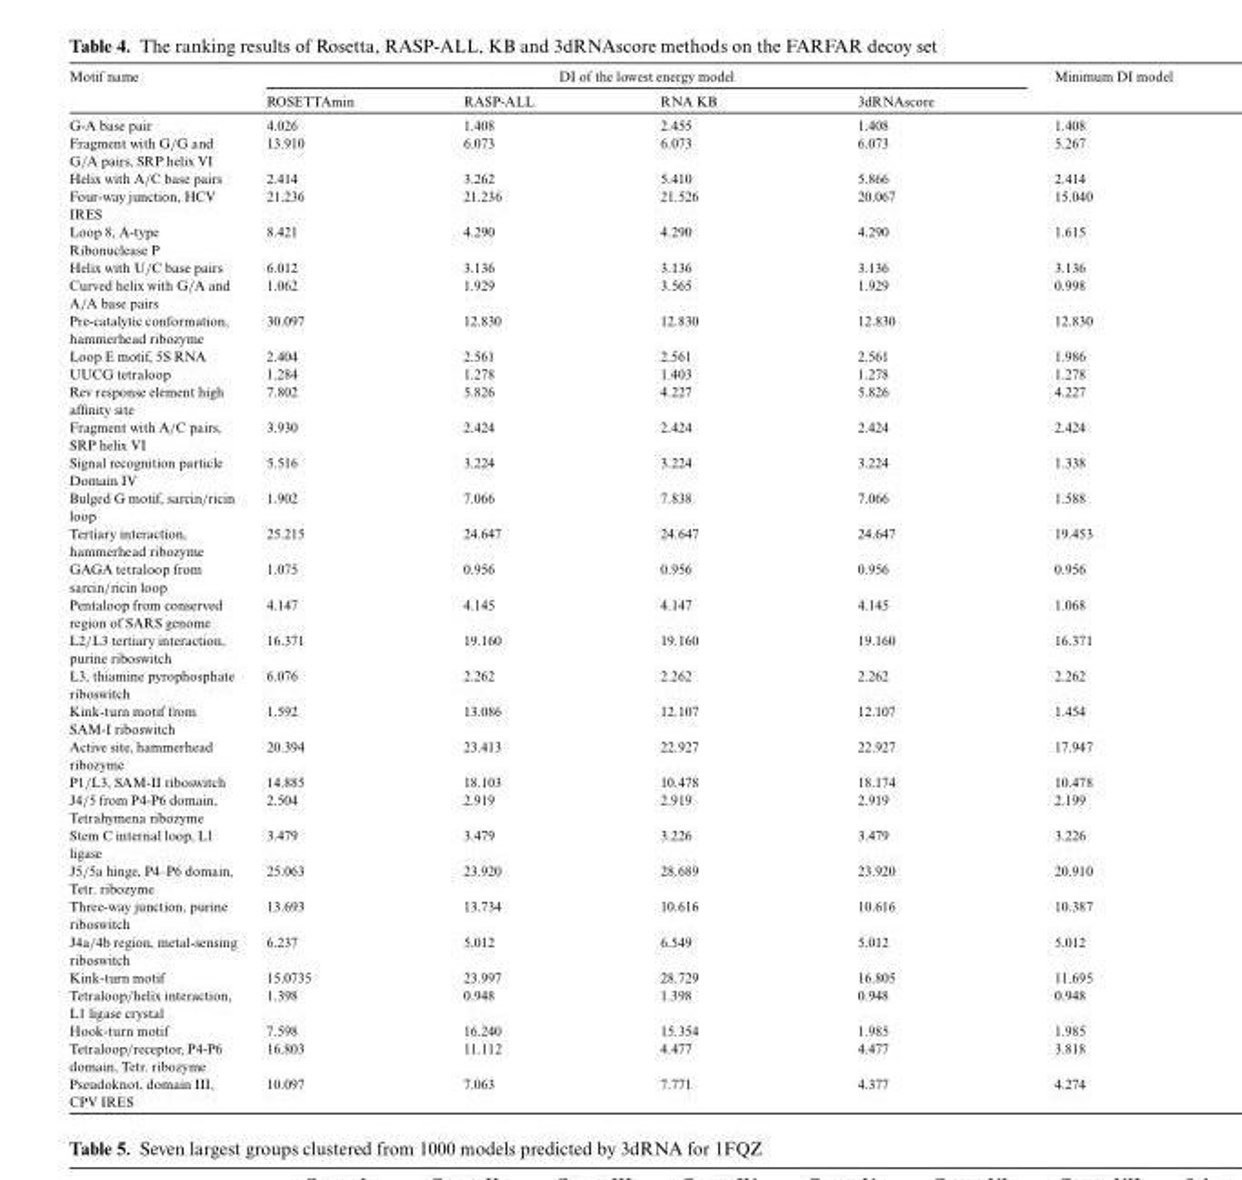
<table><thead><tr><td rowspan="2">Motif name</td><td colspan="4">DI of the lowest energy model</td><td rowspan="2">Minimum DI model</td></tr><tr><td>ROSETTAmin</td><td>RASP-ALL</td><td>RNA KB</td><td>3dRNAscore</td></tr></thead><tbody><tr><td>G-A base pair</td><td>4.026</td><td>1.408</td><td>2.455</td><td>1.408</td><td>1.408</td></tr><tr><td>Fragment with G/G and G/A pairs, SRP helix VI</td><td>13.910</td><td>6.073</td><td>6.073</td><td>6.073</td><td>5.267</td></tr><tr><td>Helix with A/C base pairs</td><td>2.414</td><td>3.262</td><td>5.410</td><td>5.866</td><td>2.414</td></tr><tr><td>Four-way junction, HCV IRES</td><td>21.236</td><td>21.236</td><td>21.526</td><td>20.067</td><td>15.040</td></tr><tr><td>Loop 8, A-type Ribonuclease P</td><td>8.421</td><td>4.290</td><td>4.290</td><td>4.290</td><td>1.615</td></tr><tr><td>Helix with U/C base pairs</td><td>6.012</td><td>3.136</td><td>3.136</td><td>3.136</td><td>3.136</td></tr><tr><td>Curved helix with G/A and A/A base pairs</td><td>1.062</td><td>1.929</td><td>3.565</td><td>1.929</td><td>0.998</td></tr><tr><td>Pre-catalytic conformation, hammerhead ribozyme</td><td>30.097</td><td>12.830</td><td>12.830</td><td>12.830</td><td>12.830</td></tr><tr><td>Loop E motif, 5S RNA</td><td>2.404</td><td>2.561</td><td>2.561</td><td>2.561</td><td>1.986</td></tr><tr><td>UUCG tetraloop</td><td>1.284</td><td>1.278</td><td>1.403</td><td>1.278</td><td>1.278</td></tr><tr><td>Rev response element high affinity site</td><td>7.802</td><td>5.826</td><td>4.227</td><td>5.826</td><td>4.227</td></tr><tr><td>Fragment with A/C pairs, SRP helix VI</td><td>3.930</td><td>2.424</td><td>2.424</td><td>2.424</td><td>2.424</td></tr><tr><td>Signal recognition particle Domain IV</td><td>5.516</td><td>3.224</td><td>3.224</td><td>3.224</td><td>1.338</td></tr><tr><td>Bulged G motif, sarcin/ricin loop</td><td>1.902</td><td>7.066</td><td>7.838</td><td>7.066</td><td>1.588</td></tr><tr><td>Tertiary interaction, hammerhead ribozyme</td><td>25.215</td><td>24.647</td><td>24.647</td><td>24.647</td><td>19.453</td></tr><tr><td>GAGA tetraloop from sarcin/ricin loop</td><td>1.075</td><td>0.956</td><td>0.956</td><td>0.956</td><td>0.956</td></tr><tr><td>Pentaloop from conserved region of SARS genome</td><td>4.147</td><td>4.145</td><td>4.147</td><td>4.145</td><td>1.068</td></tr><tr><td>L2/L3 tertiary interaction, purine riboswitch</td><td>16.371</td><td>19.160</td><td>19.160</td><td>19.160</td><td>16.371</td></tr><tr><td>L3, thiamine pyrophosphate riboswitch</td><td>6.076</td><td>2.262</td><td>2.262</td><td>2.262</td><td>2.262</td></tr><tr><td>Kink-turn motif from SAM-I riboswitch</td><td>1.592</td><td>13.086</td><td>12.107</td><td>12.107</td><td>1.454</td></tr><tr><td>Active site, hammerhead ribozyme</td><td>20.394</td><td>23.413</td><td>22.927</td><td>22.927</td><td>17.947</td></tr><tr><td>P1/L3, SAM-II riboswitch</td><td>14.885</td><td>18.103</td><td>10.478</td><td>18.174</td><td>10.478</td></tr><tr><td>J4/5 from P4-P6 domain, Tetrahymena ribozyme</td><td>2.504</td><td>2.919</td><td>2.919</td><td>2.919</td><td>2.199</td></tr><tr><td>Stem C internal loop, L1 ligase</td><td>3.479</td><td>3.479</td><td>3.226</td><td>3.479</td><td>3.226</td></tr><tr><td>J5/5a hinge, P4–P6 domain, Tetr. ribozyme</td><td>25.063</td><td>23.920</td><td>28.689</td><td>23.920</td><td>20.910</td></tr><tr><td>Three-way junction, purine riboswitch</td><td>13.693</td><td>13.734</td><td>10.616</td><td>10.616</td><td>10.387</td></tr><tr><td>J4a/4b region, metal-sensing riboswitch</td><td>6.237</td><td>5.012</td><td>6.549</td><td>5.012</td><td>5.012</td></tr><tr><td>Kink-turn motif</td><td>15.0735</td><td>23.997</td><td>28.729</td><td>16.805</td><td>11.695</td></tr><tr><td>Tetraloop/helix interaction, L1 ligase crystal</td><td>1.398</td><td>0.948</td><td>1.398</td><td>0.948</td><td>0.948</td></tr><tr><td>Hook-turn motif</td><td>7.598</td><td>16.240</td><td>15.354</td><td>1.985</td><td>1.985</td></tr><tr><td>Tetraloop/receptor, P4-P6 domain, Tetr. ribozyme</td><td>16.803</td><td>11.112</td><td>4.477</td><td>4.477</td><td>3.818</td></tr><tr><td>Pseudoknot, domain III, CPV IRES</td><td>10.097</td><td>7.063</td><td>7.771</td><td>4.377</td><td>4.274</td></tr></tbody></table>